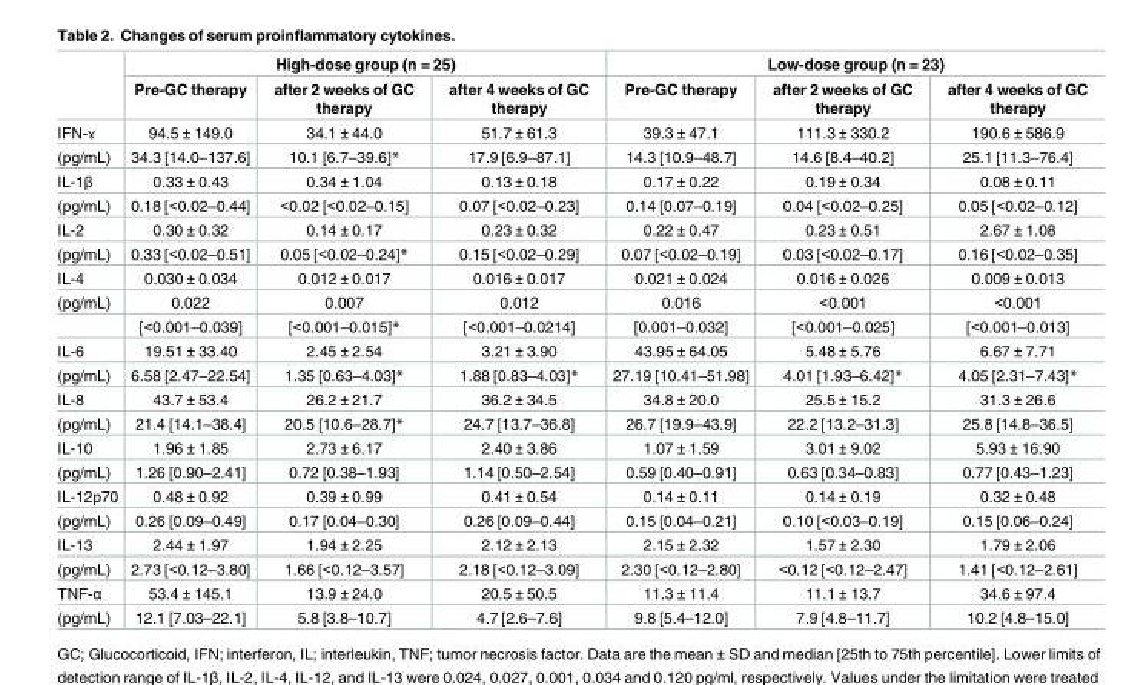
<table><thead><tr><td rowspan="2"></td><td colspan="3">High-dose group (n = 25)</td><td colspan="3">Low-dose group (n = 23)</td></tr><tr><td>Pre-GC therapy</td><td>after 2 weeks of GC therapy</td><td>after 4 weeks of GC therapy</td><td>Pre-GC therapy</td><td>after 2 weeks of GC therapy</td><td>after 4 weeks of GC therapy</td></tr></thead><tbody><tr><td>IFN-ɤ</td><td>94.5 ± 149.0</td><td>34.1 ± 44.0</td><td>51.7 ± 61.3</td><td>39.3 ± 47.1</td><td>111.3 ± 330.2</td><td>190.6 ± 586.9</td></tr><tr><td>(pg/mL)</td><td>34.3 [14.0–137.6]</td><td>10.1 [6.7–39.6]*</td><td>17.9 [6.9–87.1]</td><td>14.3 [10.9–48.7]</td><td>14.6 [8.4–40.2]</td><td>25.1 [11.3–76.4]</td></tr><tr><td>IL-1β</td><td>0.33 ± 0.43</td><td>0.34 ± 1.04</td><td>0.13 ± 0.18</td><td>0.17 ± 0.22</td><td>0.19 ± 0.34</td><td>0.08 ± 0.11</td></tr><tr><td>(pg/mL)</td><td>0.18 [&lt;0.02–0.44]</td><td>&lt;0.02 [&lt;0.02–0.15]</td><td>0.07 [&lt;0.02–0.23]</td><td>0.14 [0.07–0.19]</td><td>0.04 [&lt;0.02–0.25]</td><td>0.05 [&lt;0.02–0.12]</td></tr><tr><td>IL-2</td><td>0.30 ± 0.32</td><td>0.14 ± 0.17</td><td>0.23 ± 0.32</td><td>0.22 ± 0.47</td><td>0.23 ± 0.51</td><td>2.67 ± 1.08</td></tr><tr><td>(pg/mL)</td><td>0.33 [&lt;0.02–0.51]</td><td>0.05 [&lt;0.02–0.24]*</td><td>0.15 [&lt;0.02–0.29]</td><td>0.07 [&lt;0.02–0.19]</td><td>0.03 [&lt;0.02–0.17]</td><td>0.16 [&lt;0.02–0.35]</td></tr><tr><td>IL-4</td><td>0.030 ± 0.034</td><td>0.012 ± 0.017</td><td>0.016 ± 0.017</td><td>0.021 ± 0.024</td><td>0.016 ± 0.026</td><td>0.009 ± 0.013</td></tr><tr><td rowspan="2">(pg/mL)</td><td>0.022</td><td>0.007</td><td>0.012</td><td>0.016</td><td>&lt;0.001</td><td>&lt;0.001</td></tr><tr><td>[&lt;0.001–0.039]</td><td>[&lt;0.001–0.015]*</td><td>[&lt;0.001–0.0214]</td><td>[0.001–0.032]</td><td>[&lt;0.001–0.025]</td><td>[&lt;0.001–0.013]</td></tr><tr><td>IL-6</td><td>19.51 ± 33.40</td><td>2.45 ± 2.54</td><td>3.21 ± 3.90</td><td>43.95 ± 64.05</td><td>5.48 ± 5.76</td><td>6.67 ± 7.71</td></tr><tr><td>(pg/mL)</td><td>6.58 [2.47–22.54]</td><td>1.35 [0.63–4.03]*</td><td>1.88 [0.83–4.03]*</td><td>27.19 [10.41–51.98]</td><td>4.01 [1.93–6.42]*</td><td>4.05 [2.31–7.43]*</td></tr><tr><td>IL-8</td><td>43.7 ± 53.4</td><td>26.2 ± 21.7</td><td>36.2 ± 34.5</td><td>34.8 ± 20.0</td><td>25.5 ± 15.2</td><td>31.3 ± 26.6</td></tr><tr><td>(pg/mL)</td><td>21.4 [14.1–38.4]</td><td>20.5 [10.6–28.7]*</td><td>24.7 [13.7–36.8]</td><td>26.7 [19.9–43.9]</td><td>22.2 [13.2–31.3]</td><td>25.8 [14.8–36.5]</td></tr><tr><td>IL-10</td><td>1.96 ± 1.85</td><td>2.73 ± 6.17</td><td>2.40 ± 3.86</td><td>1.07 ± 1.59</td><td>3.01 ± 9.02</td><td>5.93 ± 16.90</td></tr><tr><td>(pg/mL)</td><td>1.26 [0.90–2.41]</td><td>0.72 [0.38–1.93]</td><td>1.14 [0.50–2.54]</td><td>0.59 [0.40–0.91]</td><td>0.63 [0.34–0.83]</td><td>0.77 [0.43–1.23]</td></tr><tr><td>IL-12p70</td><td>0.48 ± 0.92</td><td>0.39 ± 0.99</td><td>0.41 ± 0.54</td><td>0.14 ± 0.11</td><td>0.14 ± 0.19</td><td>0.32 ± 0.48</td></tr><tr><td>(pg/mL)</td><td>0.26 [0.09–0.49]</td><td>0.17 [0.04–0.30]</td><td>0.26 [0.09–0.44]</td><td>0.15 [0.04–0.21]</td><td>0.10 [&lt;0.03–0.19]</td><td>0.15 [0.06–0.24]</td></tr><tr><td>IL-13</td><td>2.44 ± 1.97</td><td>1.94 ± 2.25</td><td>2.12 ± 2.13</td><td>2.15 ± 2.32</td><td>1.57 ± 2.30</td><td>1.79 ± 2.06</td></tr><tr><td>(pg/mL)</td><td>2.73 [&lt;0.12–3.80]</td><td>1.66 [&lt;0.12–3.57]</td><td>2.18 [&lt;0.12–3.09]</td><td>2.30 [&lt;0.12–2.80]</td><td>&lt;0.12 [&lt;0.12–2.47]</td><td>1.41 [&lt;0.12–2.61]</td></tr><tr><td>TNF-α</td><td>53.4 ± 145.1</td><td>13.9 ± 24.0</td><td>20.5 ± 50.5</td><td>11.3 ± 11.4</td><td>11.1 ± 13.7</td><td>34.6 ± 97.4</td></tr><tr><td>(pg/mL)</td><td>12.1 [7.03–22.1]</td><td>5.8 [3.8–10.7]</td><td>4.7 [2.6–7.6]</td><td>9.8 [5.4–12.0]</td><td>7.9 [4.8–11.7]</td><td>10.2 [4.8–15.0]</td></tr></tbody></table>